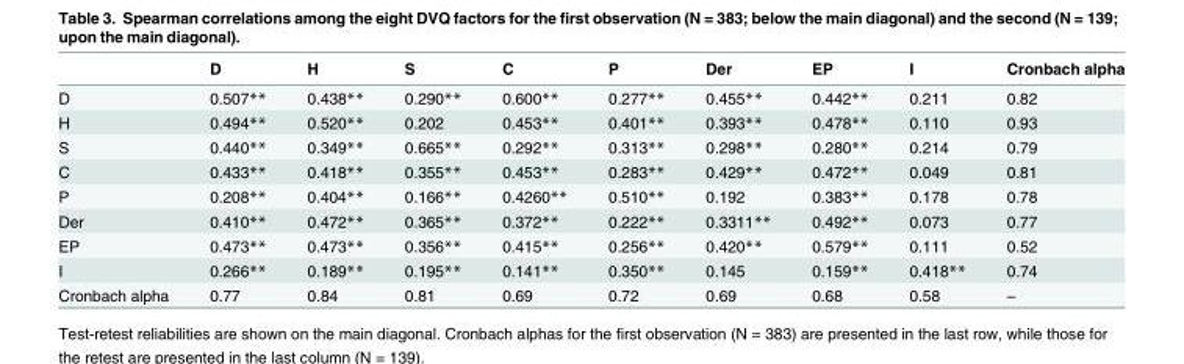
<table><thead><tr><td></td><td>D</td><td>H</td><td>S</td><td>C</td><td>P</td><td>Der</td><td>EP</td><td>I</td><td>Cronbach alpha</td></tr></thead><tbody><tr><td>D</td><td>0.507**</td><td>0.438**</td><td>0.290**</td><td>0.600**</td><td>0.277**</td><td>0.455**</td><td>0.442**</td><td>0.211</td><td>0.82</td></tr><tr><td>H</td><td>0.494**</td><td>0.520**</td><td>0.202</td><td>0.453**</td><td>0.401**</td><td>0.393**</td><td>0.478**</td><td>0.110</td><td>0.93</td></tr><tr><td>S</td><td>0.440**</td><td>0.349**</td><td>0.665**</td><td>0.292**</td><td>0.313**</td><td>0.298**</td><td>0.280**</td><td>0.214</td><td>0.79</td></tr><tr><td>C</td><td>0.433**</td><td>0.418**</td><td>0.355**</td><td>0.453**</td><td>0.283**</td><td>0.429**</td><td>0.472**</td><td>0.049</td><td>0.81</td></tr><tr><td>P</td><td>0.208**</td><td>0.404**</td><td>0.166**</td><td>0.4260**</td><td>0.510**</td><td>0.192</td><td>0.383**</td><td>0.178</td><td>0.78</td></tr><tr><td>Der</td><td>0.410**</td><td>0.472**</td><td>0.365**</td><td>0.372**</td><td>0.222**</td><td>0.3311**</td><td>0.492**</td><td>0.073</td><td>0.77</td></tr><tr><td>EP</td><td>0.473**</td><td>0.473**</td><td>0.356**</td><td>0.415**</td><td>0.256**</td><td>0.420**</td><td>0.579**</td><td>0.111</td><td>0.52</td></tr><tr><td>I</td><td>0.266**</td><td>0.189**</td><td>0.195**</td><td>0.141**</td><td>0.350**</td><td>0.145</td><td>0.159**</td><td>0.418**</td><td>0.74</td></tr><tr><td>Cronbach alpha</td><td>0.77</td><td>0.84</td><td>0.81</td><td>0.69</td><td>0.72</td><td>0.69</td><td>0.68</td><td>0.58</td><td>–</td></tr></tbody></table>